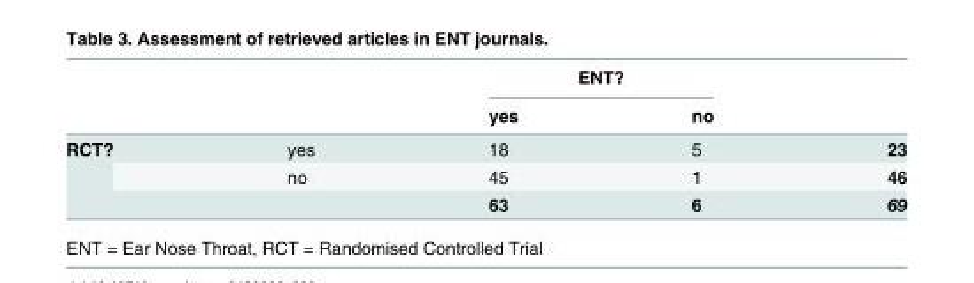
<table><thead><tr><td rowspan="2"></td><td rowspan="2"></td><td colspan="2">ENT?</td><td rowspan="2"></td></tr><tr><td>yes</td><td>no</td></tr></thead><tbody><tr><td rowspan="3">RCT?</td><td>yes</td><td>18</td><td>5</td><td>23</td></tr><tr><td>no</td><td>45</td><td>1</td><td>46</td></tr><tr><td></td><td>63</td><td>6</td><td>69</td></tr></tbody></table>